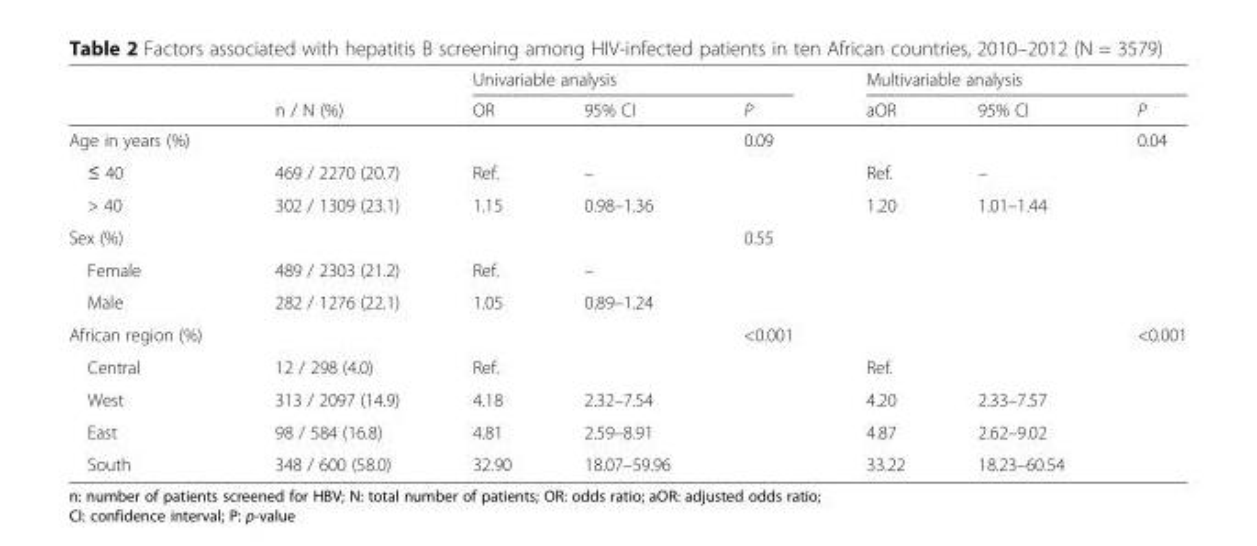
<table><thead><tr><td rowspan="2"></td><td rowspan="2">n / N (%)</td><td colspan="3">Univariable analysis</td><td colspan="3">Multivariable analysis</td></tr><tr><td>OR</td><td>95% CI</td><td>P</td><td>aOR</td><td>95% CI</td><td>P</td></tr></thead><tbody><tr><td>Age in years (%)</td><td></td><td></td><td></td><td>0.09</td><td></td><td></td><td>0.04</td></tr><tr><td>≤ 40</td><td>469 / 2270 (20.7)</td><td>Ref.</td><td>–</td><td></td><td>Ref.</td><td>–</td><td></td></tr><tr><td>&gt; 40</td><td>302 / 1309 (23.1)</td><td>1.15</td><td>0.98–1.36</td><td></td><td>1.20</td><td>1.01–1.44</td><td></td></tr><tr><td>Sex (%)</td><td></td><td></td><td></td><td>0.55</td><td></td><td></td><td></td></tr><tr><td>Female</td><td>489 / 2303 (21.2)</td><td>Ref.</td><td>–</td><td></td><td></td><td></td><td></td></tr><tr><td>Male</td><td>282 / 1276 (22.1)</td><td>1.05</td><td>0.89–1.24</td><td></td><td></td><td></td><td></td></tr><tr><td>African region (%)</td><td></td><td></td><td></td><td>&lt;0.001</td><td></td><td></td><td>&lt;0.001</td></tr><tr><td>Central</td><td>12 / 298 (4.0)</td><td>Ref.</td><td></td><td></td><td>Ref.</td><td></td><td></td></tr><tr><td>West</td><td>313 / 2097 (14.9)</td><td>4.18</td><td>2.32–7.54</td><td></td><td>4.20</td><td>2.33–7.57</td><td></td></tr><tr><td>East</td><td>98 / 584 (16.8)</td><td>4.81</td><td>2.59–8.91</td><td></td><td>4.87</td><td>2.62–9.02</td><td></td></tr><tr><td>South</td><td>348 / 600 (58.0)</td><td>32.90</td><td>18.07–59.96</td><td></td><td>33.22</td><td>18.23–60.54</td><td></td></tr></tbody></table>